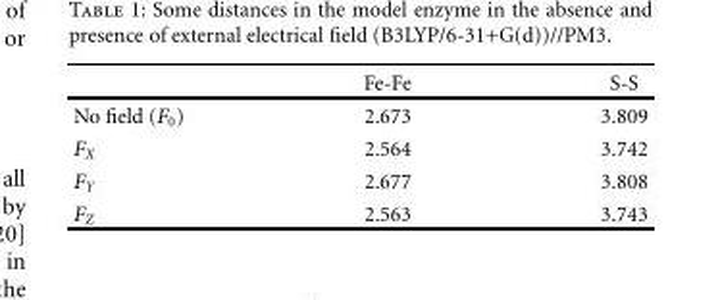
<table><thead><tr><td></td><td>Fe-Fe</td><td>S-S</td></tr></thead><tbody><tr><td>No field (F<sub>0</sub>)</td><td>2.673</td><td>3.809</td></tr><tr><td>F<sub>X</sub></td><td>2.564</td><td>3.742</td></tr><tr><td>F<sub>Y</sub></td><td>2.677</td><td>3.808</td></tr><tr><td>F<sub>Z</sub></td><td>2.563</td><td>3.743</td></tr></tbody></table>